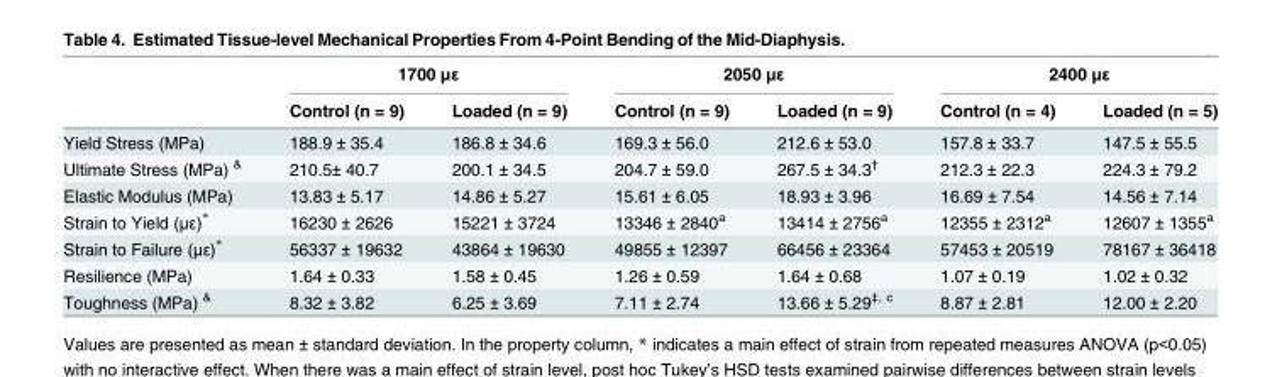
<table><thead><tr><td rowspan="2"></td><td colspan="2">1700 με</td><td colspan="2">2050 με</td><td colspan="2">2400 με</td></tr><tr><td>Control (n = 9)</td><td>Loaded (n = 9)</td><td>Control (n = 9)</td><td>Loaded (n = 9)</td><td>Control (n = 4)</td><td>Loaded (n = 5)</td></tr></thead><tbody><tr><td>Yield Stress (MPa)</td><td>188.9 ± 35.4</td><td>186.8 ± 34.6</td><td>169.3 ± 56.0</td><td>212.6 ± 53.0</td><td>157.8 ± 33.7</td><td>147.5 ± 55.5</td></tr><tr><td>Ultimate Stress (MPa) <sup>&amp;</sup></td><td>210.5± 40.7</td><td>200.1 ± 34.5</td><td>204.7 ± 59.0</td><td>267.5 ± 34.3<sup>†</sup></td><td>212.3 ± 22.3</td><td>224.3 ± 79.2</td></tr><tr><td>Elastic Modulus (MPa)</td><td>13.83 ± 5.17</td><td>14.86 ± 5.27</td><td>15.61 ± 6.05</td><td>18.93 ± 3.96</td><td>16.69 ± 7.54</td><td>14.56 ± 7.14</td></tr><tr><td>Strain to Yield (με)*</td><td>16230 ± 2626</td><td>15221 ± 3724</td><td>13346 ± 2840<sup>a</sup></td><td>13414 ± 2756<sup>a</sup></td><td>12355 ± 2312<sup>a</sup></td><td>12607 ± 1355<sup>a</sup></td></tr><tr><td>Strain to Failure (με)*</td><td>56337 ± 19632</td><td>43864 ± 19630</td><td>49855 ± 12397</td><td>66456 ± 23364</td><td>57453 ± 20519</td><td>78167 ± 36418</td></tr><tr><td>Resilience (MPa)</td><td>1.64 ± 0.33</td><td>1.58 ± 0.45</td><td>1.26 ± 0.59</td><td>1.64 ± 0.68</td><td>1.07 ± 0.19</td><td>1.02 ± 0.32</td></tr><tr><td>Toughness (MPa) <sup>&amp;</sup></td><td>8.32 ± 3.82</td><td>6.25 ± 3.69</td><td>7.11 ± 2.74</td><td>13.66 ± 5.29<sup>‡, c</sup></td><td>8.87 ± 2.81</td><td>12.00 ± 2.20</td></tr></tbody></table>